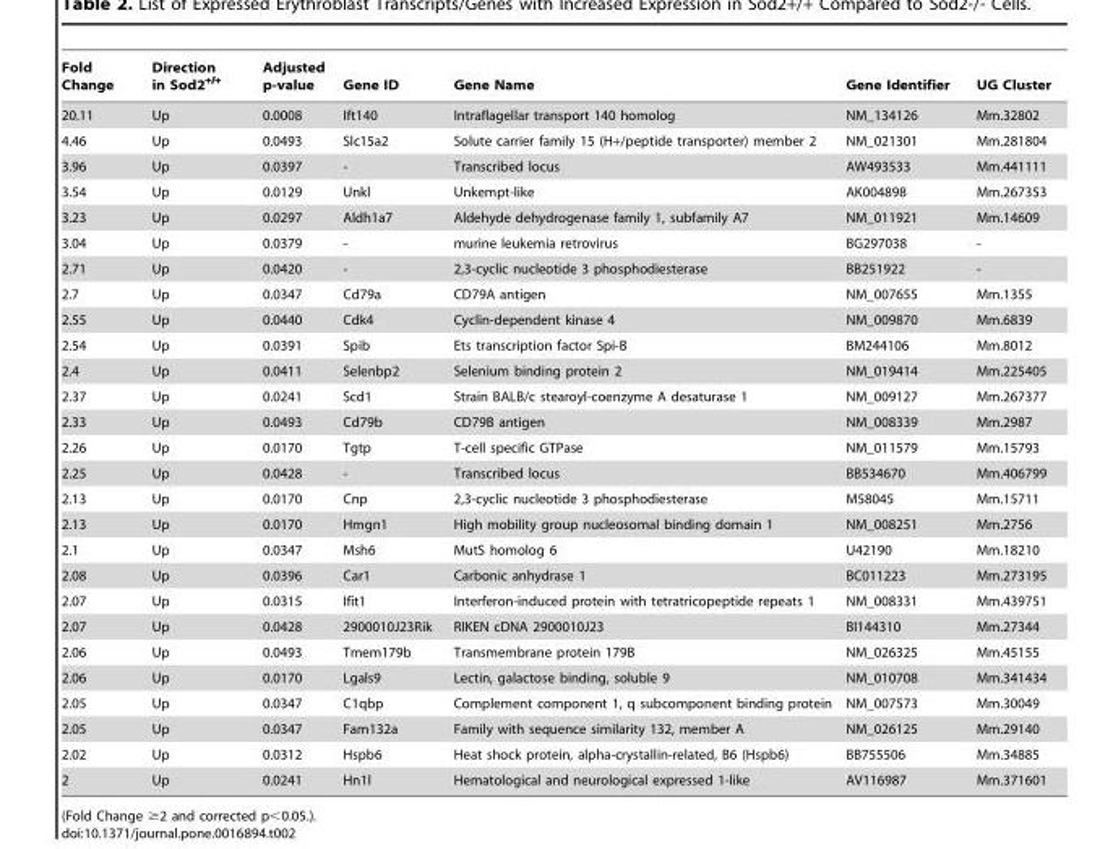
<table><thead><tr><td>Fold Change</td><td>Direction in Sod2<sup>+/+</sup></td><td>Adjusted p-value</td><td>Gene ID</td><td>Gene Name</td><td>Gene Identifier</td><td>UG Cluster</td></tr></thead><tbody><tr><td>20.11</td><td>Up</td><td>0.0008</td><td>Ift140</td><td>Intraflagellar transport 140 homolog</td><td>NM_134126</td><td>Mm.32802</td></tr><tr><td>4.46</td><td>Up</td><td>0.0493</td><td>Slc15a2</td><td>Solute carrier family 15 (H+/peptide transporter) member 2</td><td>NM_021301</td><td>Mm.281804</td></tr><tr><td>3.96</td><td>Up</td><td>0.0397</td><td>-</td><td>Transcribed locus</td><td>AW493533</td><td>Mm.441111</td></tr><tr><td>3.54</td><td>Up</td><td>0.0129</td><td>Unkl</td><td>Unkempt-like</td><td>AK004898</td><td>Mm.267353</td></tr><tr><td>3.23</td><td>Up</td><td>0.0297</td><td>Aldh1a7</td><td>Aldehyde dehydrogenase family 1, subfamily A7</td><td>NM_011921</td><td>Mm.14609</td></tr><tr><td>3.04</td><td>Up</td><td>0.0379</td><td>-</td><td>murine leukemia retrovirus</td><td>BG297038</td><td>-</td></tr><tr><td>2.71</td><td>Up</td><td>0.0420</td><td>-</td><td>2,3-cyclic nucleotide 3 phosphodiesterase</td><td>BB251922</td><td>-</td></tr><tr><td>2.7</td><td>Up</td><td>0.0347</td><td>Cd79a</td><td>CD79A antigen</td><td>NM_007655</td><td>Mm.1355</td></tr><tr><td>2.55</td><td>Up</td><td>0.0440</td><td>Cdk4</td><td>Cyclin-dependent kinase 4</td><td>NM_009870</td><td>Mm.6839</td></tr><tr><td>2.54</td><td>Up</td><td>0.0391</td><td>Spib</td><td>Ets transcription factor Spi-B</td><td>BM244106</td><td>Mm.8012</td></tr><tr><td>2.4</td><td>Up</td><td>0.0411</td><td>Selenbp2</td><td>Selenium binding protein 2</td><td>NM_019414</td><td>Mm.225405</td></tr><tr><td>2.37</td><td>Up</td><td>0.0241</td><td>Scd1</td><td>Strain BALB/c stearoyl-coenzyme A desaturase 1</td><td>NM_009127</td><td>Mm.267377</td></tr><tr><td>2.33</td><td>Up</td><td>0.0493</td><td>Cd79b</td><td>CD79B antigen</td><td>NM_008339</td><td>Mm.2987</td></tr><tr><td>2.26</td><td>Up</td><td>0.0170</td><td>Tgtp</td><td>T-cell specific GTPase</td><td>NM_011579</td><td>Mm.15793</td></tr><tr><td>2.25</td><td>Up</td><td>0.0428</td><td>-</td><td>Transcribed locus</td><td>BB534670</td><td>Mm.406799</td></tr><tr><td>2.13</td><td>Up</td><td>0.0170</td><td>Cnp</td><td>2,3-cyclic nucleotide 3 phosphodiesterase</td><td>M58045</td><td>Mm.15711</td></tr><tr><td>2.13</td><td>Up</td><td>0.0170</td><td>Hmgn1</td><td>High mobility group nucleosomal binding domain 1</td><td>NM_008251</td><td>Mm.2756</td></tr><tr><td>2.1</td><td>Up</td><td>0.0347</td><td>Msh6</td><td>MutS homolog 6</td><td>U42190</td><td>Mm.18210</td></tr><tr><td>2.08</td><td>Up</td><td>0.0396</td><td>Car1</td><td>Carbonic anhydrase 1</td><td>BC011223</td><td>Mm.273195</td></tr><tr><td>2.07</td><td>Up</td><td>0.0315</td><td>Ifit1</td><td>Interferon-induced protein with tetratricopeptide repeats 1</td><td>NM_008331</td><td>Mm.439751</td></tr><tr><td>2.07</td><td>Up</td><td>0.0428</td><td>2900010J23Rik</td><td>RIKEN cDNA 2900010J23</td><td>BI144310</td><td>Mm.27344</td></tr><tr><td>2.06</td><td>Up</td><td>0.0493</td><td>Tmem179b</td><td>Transmembrane protein 179B</td><td>NM_026325</td><td>Mm.45155</td></tr><tr><td>2.06</td><td>Up</td><td>0.0170</td><td>Lgals9</td><td>Lectin, galactose binding, soluble 9</td><td>NM_010708</td><td>Mm.341434</td></tr><tr><td>2.05</td><td>Up</td><td>0.0347</td><td>C1qbp</td><td>Complement component 1, q subcomponent binding protein</td><td>NM_007573</td><td>Mm.30049</td></tr><tr><td>2.05</td><td>Up</td><td>0.0347</td><td>Fam132a</td><td>Family with sequence similarity 132, member A</td><td>NM_026125</td><td>Mm.29140</td></tr><tr><td>2.02</td><td>Up</td><td>0.0312</td><td>Hspb6</td><td>Heat shock protein, alpha-crystallin-related, B6 (Hspb6)</td><td>BB755506</td><td>Mm.34885</td></tr><tr><td>2</td><td>Up</td><td>0.0241</td><td>Hn1l</td><td>Hematological and neurological expressed 1-like</td><td>AV116987</td><td>Mm.371601</td></tr></tbody></table>